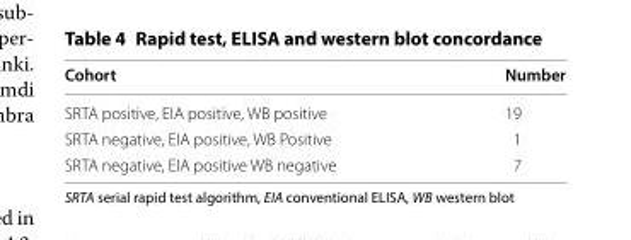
<table><thead><tr><td>Cohort</td><td>Number</td></tr></thead><tbody><tr><td>SRTA positive, EIA positive, WB positive</td><td>19</td></tr><tr><td>SRTA negative, EIA positive, WB Positive</td><td>1</td></tr><tr><td>SRTA negative, EIA positive WB negative</td><td>7</td></tr></tbody></table>